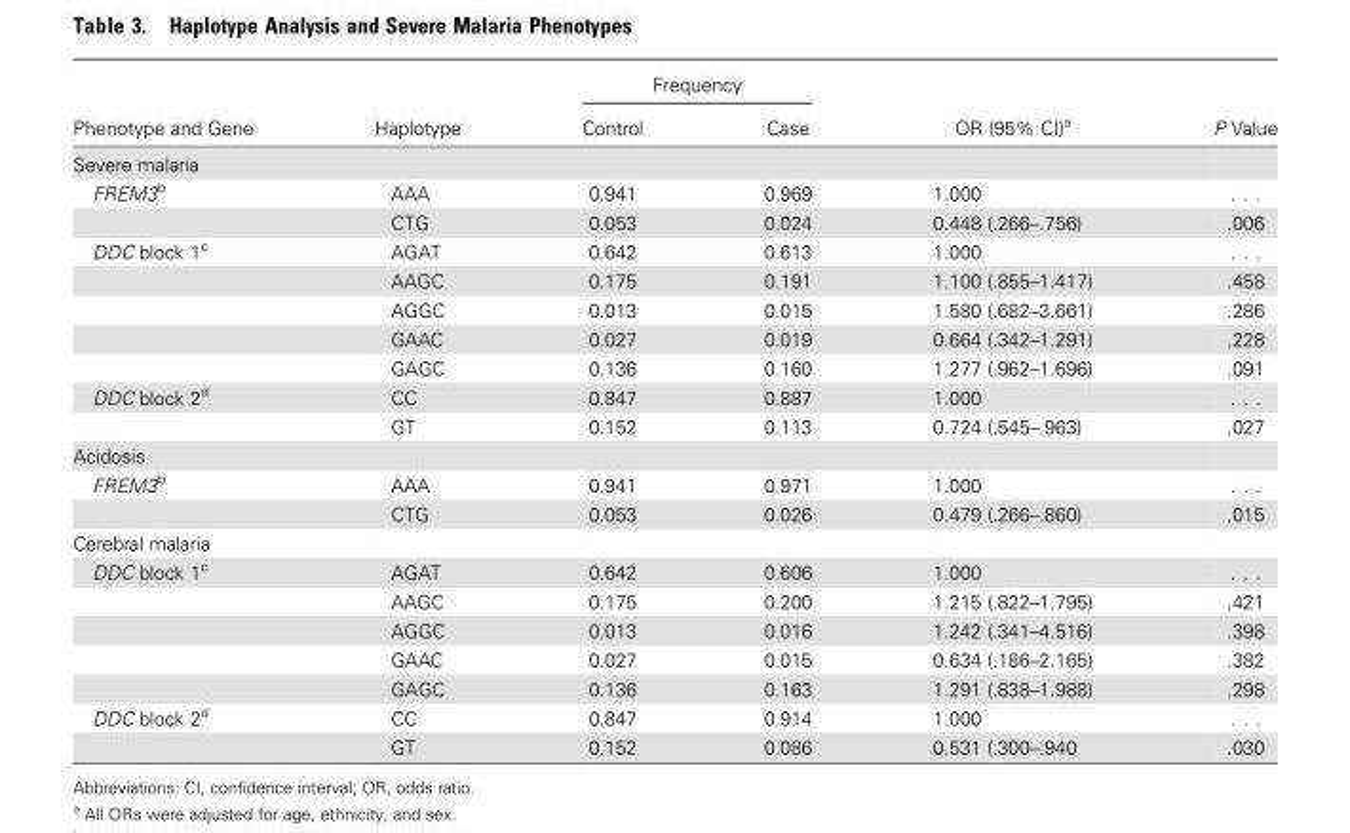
<table><thead><tr><td rowspan="2">Phenotype and Gene</td><td rowspan="2">Haplotype</td><td colspan="2">Frequency</td><td rowspan="2">OR (95% CI)<sup>a</sup></td><td rowspan="2">P Value</td></tr><tr><td>Control</td><td>Case</td></tr></thead><tbody><tr><td colspan="6">Severe malaria</td></tr><tr><td rowspan="2">FREM3<sup>b</sup></td><td>AAA</td><td>0.941</td><td>0.969</td><td>1.000</td><td>. . .</td></tr><tr><td>CTG</td><td>0.053</td><td>0.024</td><td>0.448 (.266–.756)</td><td>.006</td></tr><tr><td rowspan="5">DDC block 1<sup>c</sup></td><td>AGAT</td><td>0.642</td><td>0.613</td><td>1.000</td><td>. . .</td></tr><tr><td>AAGC</td><td>0.175</td><td>0.191</td><td>1.100 (.855–1.417)</td><td>.458</td></tr><tr><td>AGGC</td><td>0.013</td><td>0.015</td><td>1.580 (.682–3.661)</td><td>.286</td></tr><tr><td>GAAC</td><td>0.027</td><td>0.019</td><td>0.664 (.342–1.291)</td><td>.228</td></tr><tr><td>GAGC</td><td>0.136</td><td>0.160</td><td>1.277 (.962–1.696)</td><td>.091</td></tr><tr><td rowspan="2">DDC block 2<sup>d</sup></td><td>CC</td><td>0.847</td><td>0.887</td><td>1.000</td><td>. . .</td></tr><tr><td>GT</td><td>0.152</td><td>0.113</td><td>0.724 (.545–.963)</td><td>.027</td></tr><tr><td colspan="6">Acidosis</td></tr><tr><td rowspan="2">FREM3<sup>b</sup></td><td>AAA</td><td>0.941</td><td>0.971</td><td>1.000</td><td>. . .</td></tr><tr><td>CTG</td><td>0.053</td><td>0.026</td><td>0.479 (.266–.860)</td><td>.015</td></tr><tr><td colspan="6">Cerebral malaria</td></tr><tr><td rowspan="5">DDC block 1<sup>c</sup></td><td>AGAT</td><td>0.642</td><td>0.606</td><td>1.000</td><td>. . .</td></tr><tr><td>AAGC</td><td>0.175</td><td>0.200</td><td>1.215 (.822–1.795)</td><td>.421</td></tr><tr><td>AGGC</td><td>0.013</td><td>0.016</td><td>1.242 (.341–4.516)</td><td>.398</td></tr><tr><td>GAAC</td><td>0.027</td><td>0.015</td><td>0.634 (.186–2.165)</td><td>.382</td></tr><tr><td>GAGC</td><td>0.136</td><td>0.163</td><td>1.291 (.838–1.988)</td><td>.298</td></tr><tr><td rowspan="2">DDC block 2<sup>d</sup></td><td>CC</td><td>0.847</td><td>0.914</td><td>1.000</td><td>. . .</td></tr><tr><td>GT</td><td>0.152</td><td>0.086</td><td>0.531 (.300–.940</td><td>.030</td></tr></tbody></table>